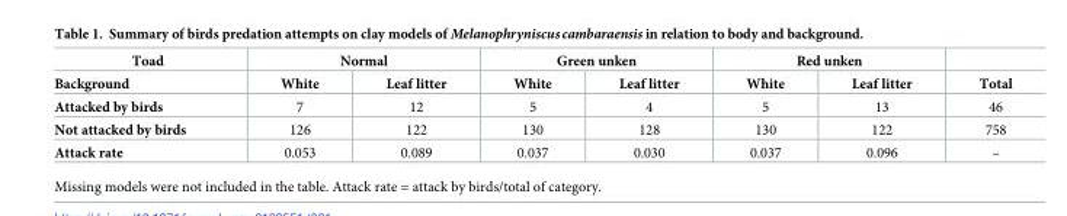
<table><thead><tr><td rowspan="2">Toad Background</td><td colspan="2">Normal</td><td colspan="2">Green unken</td><td colspan="2">Red unken</td><td rowspan="2">Total</td></tr><tr><td>White</td><td>Leaf litter</td><td>White</td><td>Leaf litter</td><td>White</td><td>Leaf litter</td></tr></thead><tbody><tr><td>Attacked by birds</td><td>7</td><td>12</td><td>5</td><td>4</td><td>5</td><td>13</td><td>46</td></tr><tr><td>Not attacked by birds</td><td>126</td><td>122</td><td>130</td><td>128</td><td>130</td><td>122</td><td>758</td></tr><tr><td>Attack rate</td><td>0.053</td><td>0.089</td><td>0.037</td><td>0.030</td><td>0.037</td><td>0.096</td><td>–</td></tr></tbody></table>